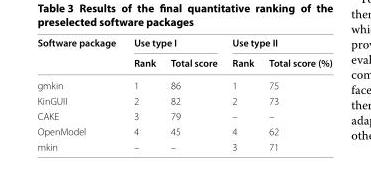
<table><thead><tr><td rowspan="2">Software package</td><td colspan="2">Use type I</td><td colspan="2">Use type II</td></tr><tr><td>Rank</td><td>Total score</td><td>Rank</td><td>Total score (%)</td></tr></thead><tbody><tr><td>gmkin</td><td>1</td><td>86</td><td>1</td><td>75</td></tr><tr><td>KinGUII</td><td>2</td><td>82</td><td>2</td><td>73</td></tr><tr><td>CAKE</td><td>3</td><td>79</td><td>–</td><td>–</td></tr><tr><td>OpenModel</td><td>4</td><td>45</td><td>4</td><td>62</td></tr><tr><td>mkin</td><td>–</td><td>–</td><td>3</td><td>71</td></tr></tbody></table>